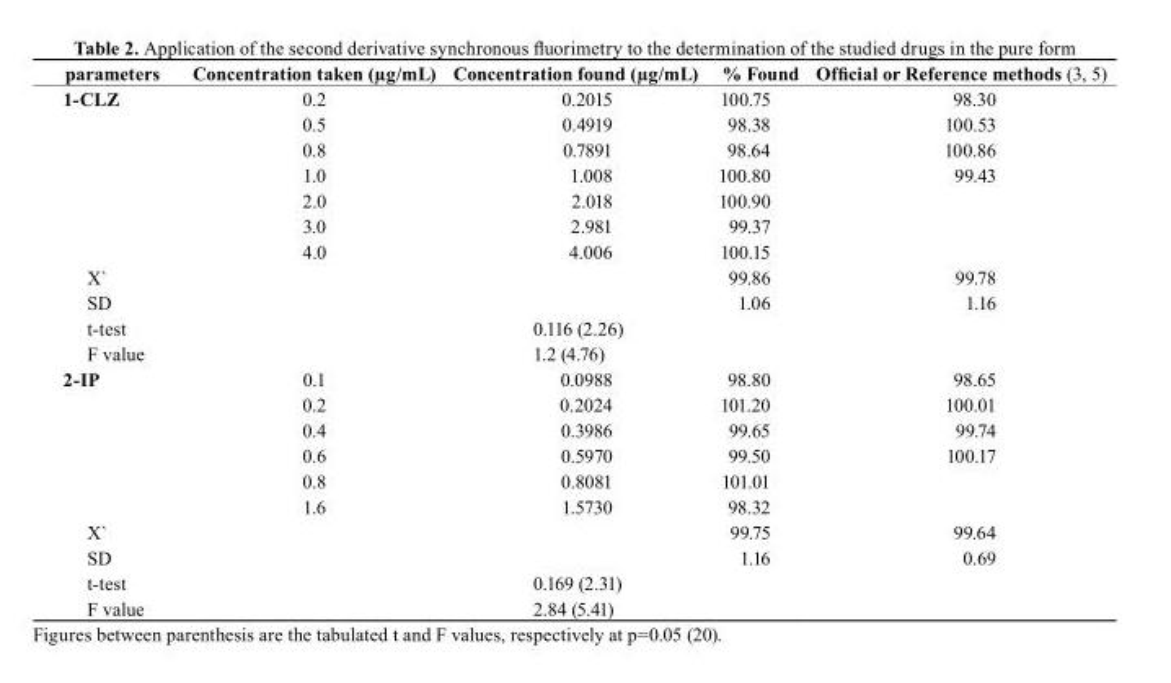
<table><thead><tr><td>parameters</td><td>Concentration taken (µg/mL)</td><td>Concentration found (µg/mL)</td><td>% Found</td><td>Official or reference methods (3, 5)</td></tr></thead><tbody><tr><td rowspan="7">1-CLZ</td><td>0.2</td><td>0.2015</td><td>100.75</td><td>98.30</td></tr><tr><td>0.5</td><td>0.4919</td><td>98.38</td><td>100.53</td></tr><tr><td>0.8</td><td>0.7891</td><td>98.64</td><td>100.86</td></tr><tr><td>1.0</td><td>1.008</td><td>100.80</td><td>99.43</td></tr><tr><td>2.0</td><td>2.018</td><td>100.90</td><td></td></tr><tr><td>3.0</td><td>2.981</td><td>99.37</td><td></td></tr><tr><td>4.0</td><td>4.006</td><td>100.15</td><td></td></tr><tr><td>X`</td><td></td><td></td><td>99.86</td><td>99.78</td></tr><tr><td>SD</td><td></td><td></td><td>1.06</td><td>1.16</td></tr><tr><td>t-test</td><td></td><td>0.116 (2.26)</td><td></td><td></td></tr><tr><td>F value</td><td></td><td>1.2 (4.76)</td><td></td><td></td></tr><tr><td rowspan="6">2-IP</td><td>0.1</td><td>0.0988</td><td>98.80</td><td>98.65</td></tr><tr><td>0.2</td><td>0.2024</td><td>101.20</td><td>100.01</td></tr><tr><td>0.4</td><td>0.3986</td><td>99.65</td><td>99.74</td></tr><tr><td>0.6</td><td>0.5970</td><td>99.50</td><td>100.17</td></tr><tr><td>0.8</td><td>0.8081</td><td>101.01</td><td></td></tr><tr><td>1.6</td><td>1.5730</td><td>98.32</td><td></td></tr><tr><td>X`</td><td></td><td></td><td>99.75</td><td>99.64</td></tr><tr><td>SD</td><td></td><td></td><td>1.16</td><td>0.69</td></tr><tr><td>t-test</td><td></td><td>0.169 (2.31)</td><td></td><td></td></tr><tr><td>F value</td><td></td><td>2.84 (5.41)</td><td></td><td></td></tr></tbody></table>